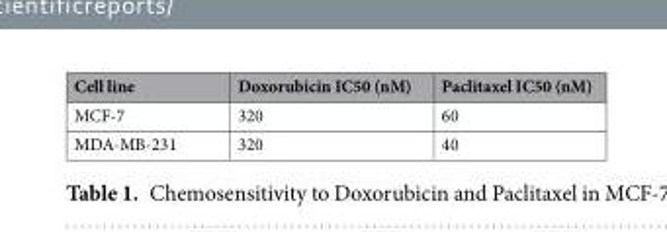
<table><thead><tr><td>Cell line</td><td>Doxorubicin IC50 (nM)</td><td>Paclitaxel IC50 (nM)</td></tr></thead><tbody><tr><td>MCF-7</td><td>320</td><td>60</td></tr><tr><td>MDA-MB-231</td><td>320</td><td>40</td></tr></tbody></table>